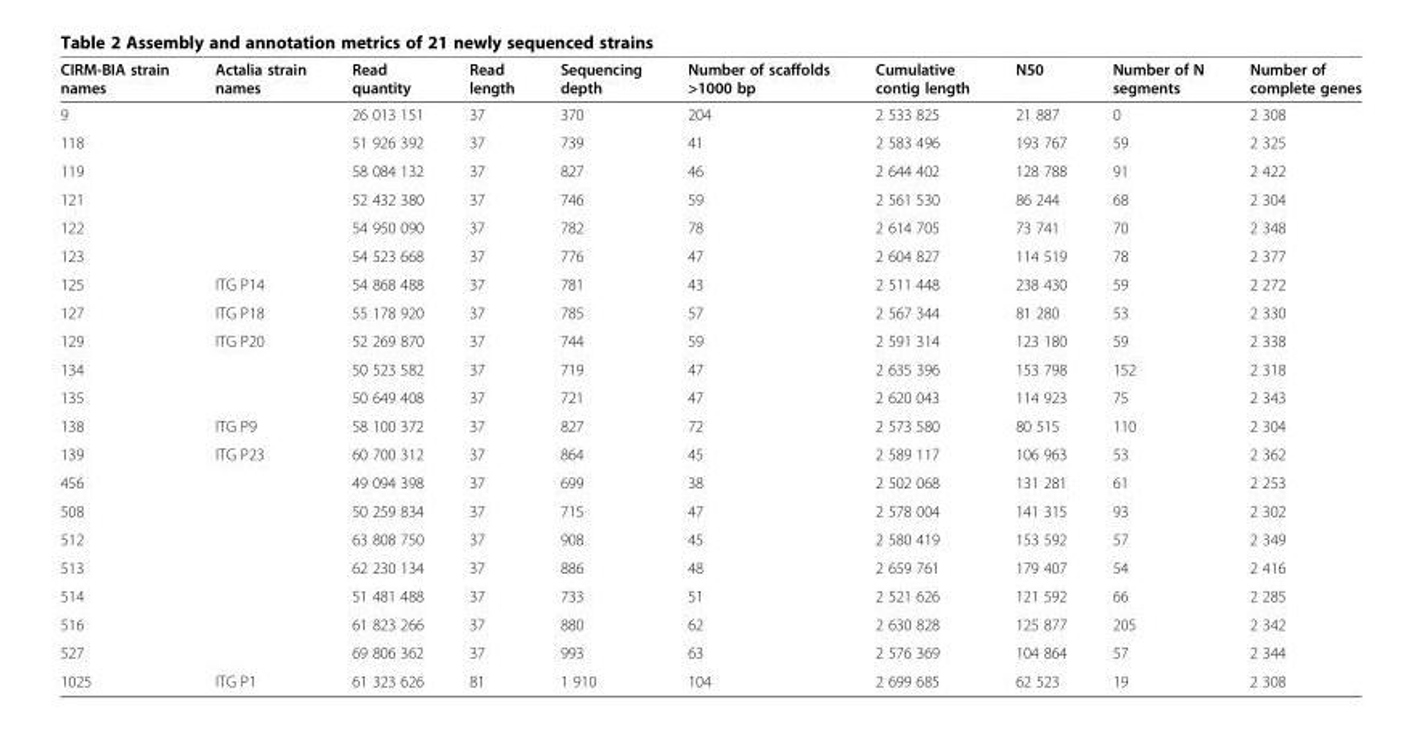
<table><thead><tr><td>CIRM-BIA strain names</td><td>Actalia strain names</td><td>Read quantity</td><td>Read length</td><td>Sequencing depth</td><td>Number of scaffolds &gt;1000 bp</td><td>Cumulative contig length</td><td>N50</td><td>Number of N segments</td><td>Number of complete genes</td></tr></thead><tbody><tr><td>9</td><td></td><td>26 013 151</td><td>37</td><td>370</td><td>204</td><td>2 533 825</td><td>21 887</td><td>0</td><td>2 308</td></tr><tr><td>118</td><td></td><td>51 926 392</td><td>37</td><td>739</td><td>41</td><td>2 583 496</td><td>193 767</td><td>59</td><td>2 325</td></tr><tr><td>119</td><td></td><td>58 084 132</td><td>37</td><td>827</td><td>46</td><td>2 644 402</td><td>128 788</td><td>91</td><td>2 422</td></tr><tr><td>121</td><td></td><td>52 432 380</td><td>37</td><td>746</td><td>59</td><td>2 561 530</td><td>86 244</td><td>68</td><td>2 304</td></tr><tr><td>122</td><td></td><td>54 950 090</td><td>37</td><td>782</td><td>78</td><td>2 614 705</td><td>73 741</td><td>70</td><td>2 348</td></tr><tr><td>123</td><td></td><td>54 523 668</td><td>37</td><td>776</td><td>47</td><td>2 604 827</td><td>114 519</td><td>78</td><td>2 377</td></tr><tr><td>125</td><td>ITG P14</td><td>54 868 488</td><td>37</td><td>781</td><td>43</td><td>2 511 448</td><td>238 430</td><td>59</td><td>2 272</td></tr><tr><td>127</td><td>ITG P18</td><td>55 178 920</td><td>37</td><td>785</td><td>57</td><td>2 567 344</td><td>81 280</td><td>53</td><td>2 330</td></tr><tr><td>129</td><td>ITG P20</td><td>52 269 870</td><td>37</td><td>744</td><td>59</td><td>2 591 314</td><td>123 180</td><td>59</td><td>2 338</td></tr><tr><td>134</td><td></td><td>50 523 582</td><td>37</td><td>719</td><td>47</td><td>2 635 396</td><td>153 798</td><td>152</td><td>2 318</td></tr><tr><td>135</td><td></td><td>50 649 408</td><td>37</td><td>721</td><td>47</td><td>2 620 043</td><td>114 923</td><td>75</td><td>2 343</td></tr><tr><td>138</td><td>ITG P9</td><td>58 100 372</td><td>37</td><td>827</td><td>72</td><td>2 573 580</td><td>80 515</td><td>110</td><td>2 304</td></tr><tr><td>139</td><td>ITG P23</td><td>60 700 312</td><td>37</td><td>864</td><td>45</td><td>2 589 117</td><td>106 963</td><td>53</td><td>2 362</td></tr><tr><td>456</td><td></td><td>49 094 398</td><td>37</td><td>699</td><td>38</td><td>2 502 068</td><td>131 281</td><td>61</td><td>2 253</td></tr><tr><td>508</td><td></td><td>50 259 834</td><td>37</td><td>715</td><td>47</td><td>2 578 004</td><td>141 315</td><td>93</td><td>2 302</td></tr><tr><td>512</td><td></td><td>63 808 750</td><td>37</td><td>908</td><td>45</td><td>2 580 419</td><td>153 592</td><td>57</td><td>2 349</td></tr><tr><td>513</td><td></td><td>62 230 134</td><td>37</td><td>886</td><td>48</td><td>2 659 761</td><td>179 407</td><td>54</td><td>2 416</td></tr><tr><td>514</td><td></td><td>51 481 488</td><td>37</td><td>733</td><td>51</td><td>2 521 626</td><td>121 592</td><td>66</td><td>2 285</td></tr><tr><td>516</td><td></td><td>61 823 266</td><td>37</td><td>880</td><td>62</td><td>2 630 828</td><td>125 877</td><td>205</td><td>2 342</td></tr><tr><td>527</td><td></td><td>69 806 362</td><td>37</td><td>993</td><td>63</td><td>2 576 369</td><td>104 864</td><td>57</td><td>2 344</td></tr><tr><td>1025</td><td>ITG P1</td><td>61 323 626</td><td>81</td><td>1 910</td><td>104</td><td>2 699 685</td><td>62 523</td><td>19</td><td>2 308</td></tr></tbody></table>